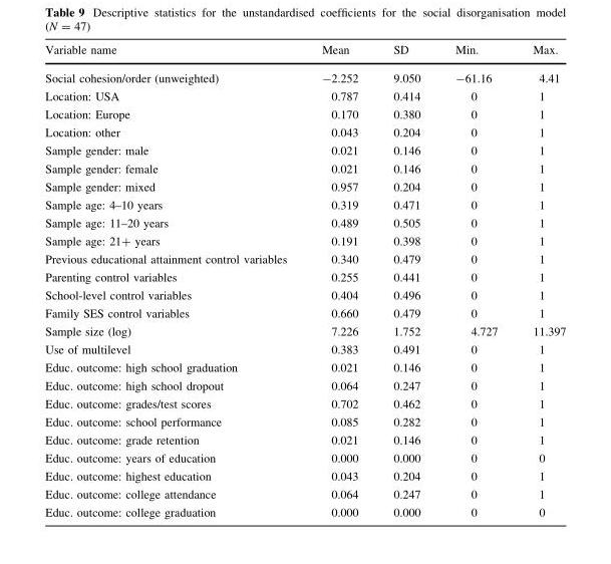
<table><thead><tr><td>Variable name</td><td>Mean</td><td>SD</td><td>Min.</td><td>Max.</td></tr></thead><tbody><tr><td>Social cohesion/order (unweighted)</td><td>-2.252</td><td>9.050</td><td>-61.16</td><td>4.41</td></tr><tr><td>Location: USA</td><td>0.787</td><td>0.414</td><td>0</td><td>1</td></tr><tr><td>Location: Europe</td><td>0.170</td><td>0.380</td><td>0</td><td>1</td></tr><tr><td>Location: other</td><td>0.043</td><td>0.204</td><td>0</td><td>1</td></tr><tr><td>Sample gender: male</td><td>0.021</td><td>0.146</td><td>0</td><td>1</td></tr><tr><td>Sample gender: female</td><td>0.021</td><td>0.146</td><td>0</td><td>1</td></tr><tr><td>Sample gender: mixed</td><td>0.957</td><td>0.204</td><td>0</td><td>1</td></tr><tr><td>Sample age: 4–10 years</td><td>0.319</td><td>0.471</td><td>0</td><td>1</td></tr><tr><td>Sample age: 11–20 years</td><td>0.489</td><td>0.505</td><td>0</td><td>1</td></tr><tr><td>Sample age: 21+ years</td><td>0.191</td><td>0.398</td><td>0</td><td>1</td></tr><tr><td>Previous educational attainment control variables</td><td>0.340</td><td>0.479</td><td>0</td><td>1</td></tr><tr><td>Parenting control variables</td><td>0.255</td><td>0.441</td><td>0</td><td>1</td></tr><tr><td>School-level control variables</td><td>0.404</td><td>0.496</td><td>0</td><td>1</td></tr><tr><td>Family SES control variables</td><td>0.660</td><td>0.479</td><td>0</td><td>1</td></tr><tr><td>Sample size (log)</td><td>7.226</td><td>1.752</td><td>4.727</td><td>11.397</td></tr><tr><td>Use of multilevel</td><td>0.383</td><td>0.491</td><td>0</td><td>1</td></tr><tr><td>Educ. outcome: high school graduation</td><td>0.021</td><td>0.146</td><td>0</td><td>1</td></tr><tr><td>Educ. outcome: high school dropout</td><td>0.064</td><td>0.247</td><td>0</td><td>1</td></tr><tr><td>Educ. outcome: grades/test scores</td><td>0.702</td><td>0.462</td><td>0</td><td>1</td></tr><tr><td>Educ. outcome: school performance</td><td>0.085</td><td>0.282</td><td>0</td><td>1</td></tr><tr><td>Educ. outcome: grade retention</td><td>0.021</td><td>0.146</td><td>0</td><td>1</td></tr><tr><td>Educ. outcome: years of education</td><td>0.000</td><td>0.000</td><td>0</td><td>0</td></tr><tr><td>Educ. outcome: highest education</td><td>0.043</td><td>0.204</td><td>0</td><td>1</td></tr><tr><td>Educ. outcome: college attendance</td><td>0.064</td><td>0.247</td><td>0</td><td>1</td></tr><tr><td>Educ. outcome: college graduation</td><td>0.000</td><td>0.000</td><td>0</td><td>0</td></tr></tbody></table>